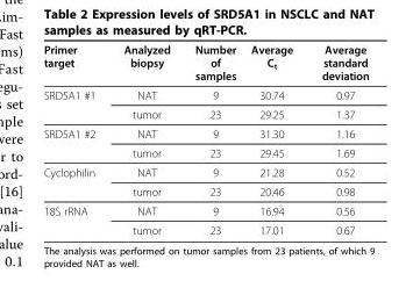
<table><thead><tr><td>Primer target</td><td>Analyzed biopsy</td><td>Number of samples</td><td>Average C<sub>t</sub></td><td>Average standard deviation</td></tr></thead><tbody><tr><td rowspan="2">SRD5A1 #1</td><td>NAT</td><td>9</td><td>30.74</td><td>0.97</td></tr><tr><td>tumor</td><td>23</td><td>29.25</td><td>1.37</td></tr><tr><td rowspan="2">SRD5A1 #2</td><td>NAT</td><td>9</td><td>31.30</td><td>1.16</td></tr><tr><td>tumor</td><td>23</td><td>29.45</td><td>1.69</td></tr><tr><td rowspan="2">Cyclophilin</td><td>NAT</td><td>9</td><td>21.28</td><td>0.52</td></tr><tr><td>tumor</td><td>23</td><td>20.46</td><td>0.98</td></tr><tr><td rowspan="2">18S rRNA</td><td>NAT</td><td>9</td><td>16.94</td><td>0.56</td></tr><tr><td>tumor</td><td>23</td><td>17.01</td><td>0.67</td></tr></tbody></table>